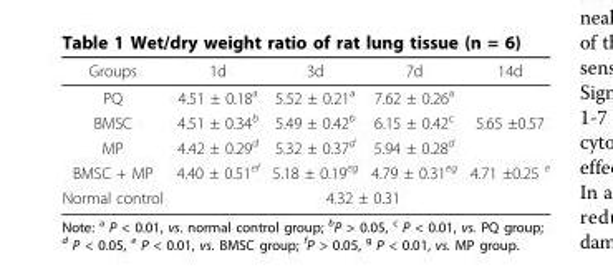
<table><thead><tr><td>Groups</td><td>1d</td><td>3d</td><td>7d</td><td>14d</td></tr></thead><tbody><tr><td>PQ</td><td>4.51 ± 0.18<sup>a</sup></td><td>5.52 ± 0.21<sup>a</sup></td><td>7.62 ± 0.26<sup>a</sup></td><td></td></tr><tr><td>BMSC</td><td>4.51 ± 0.34<sup>b</sup></td><td>5.49 ± 0.42<sup>b</sup></td><td>6.15 ± 0.42<sup>c</sup></td><td>5.65 ±0.57</td></tr><tr><td>MP</td><td>4.42 ± 0.29<sup>d</sup></td><td>5.32 ± 0.37<sup>d</sup></td><td>5.94 ± 0.28<sup>d</sup></td><td></td></tr><tr><td>BMSC + MP</td><td>4.40 ± 0.51<sup>ef</sup></td><td>5.18 ± 0.19<sup>eg</sup></td><td>4.79 ± 0.31<sup>eg</sup></td><td>4.71 ±0.25 <sup>e</sup></td></tr><tr><td>Normal control</td><td colspan="4">4.32 ± 0.31</td></tr></tbody></table>